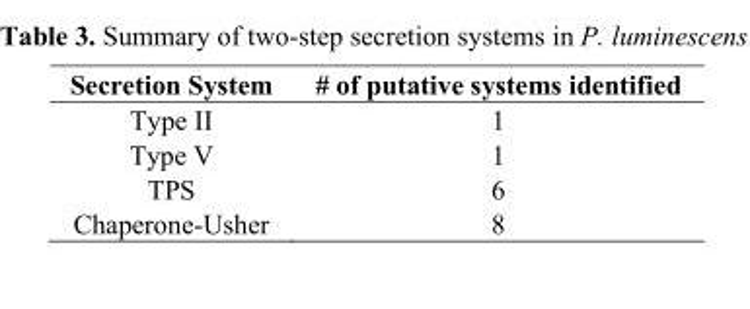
<table><thead><tr><td>Secretion System</td><td># of putative systems identified</td></tr></thead><tbody><tr><td>Type II</td><td>1</td></tr><tr><td>Type V</td><td>1</td></tr><tr><td>TPS</td><td>6</td></tr><tr><td>Chaperone-Usher</td><td>8</td></tr></tbody></table>